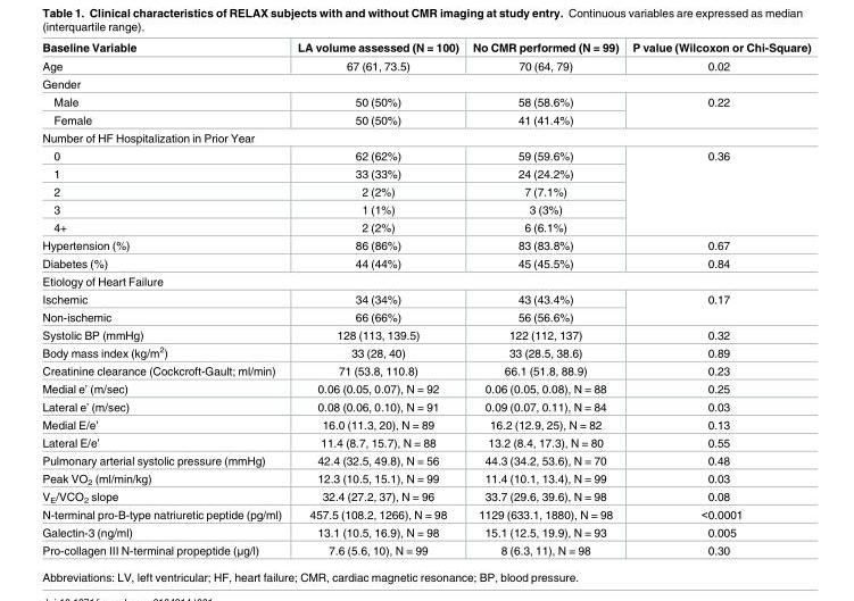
<table><thead><tr><td>Baseline Variable</td><td>LA volume assessed (N = 100)</td><td>No CMR performed (N = 99)</td><td>P value (Wilcoxon or Chi-Square)</td></tr></thead><tbody><tr><td>Age</td><td>67 (61, 73.5)</td><td>70 (64, 79)</td><td>0.02</td></tr><tr><td colspan="4">Gender</td></tr><tr><td>Male</td><td>50 (50%)</td><td>58 (58.6%)</td><td rowspan="2">0.22</td></tr><tr><td>Female</td><td>50 (50%)</td><td>41 (41.4%)</td></tr><tr><td colspan="4">Number of HF Hospitalization in Prior Year</td></tr><tr><td>0</td><td>62 (62%)</td><td>59 (59.6%)</td><td rowspan="5">0.36</td></tr><tr><td>1</td><td>33 (33%)</td><td>24 (24.2%)</td></tr><tr><td>2</td><td>2 (2%)</td><td>7 (7.1%)</td></tr><tr><td>3</td><td>1 (1%)</td><td>3 (3%)</td></tr><tr><td>4+</td><td>2 (2%)</td><td>6 (6.1%)</td></tr><tr><td>Hypertension (%)</td><td>86 (86%)</td><td>83 (83.8%)</td><td>0.67</td></tr><tr><td>Diabetes (%)</td><td>44 (44%)</td><td>45 (45.5%)</td><td>0.84</td></tr><tr><td colspan="4">Etiology of Heart Failure</td></tr><tr><td>Ischemic</td><td>34 (34%)</td><td>43 (43.4%)</td><td rowspan="2">0.17</td></tr><tr><td>Non-ischemic</td><td>66 (66%)</td><td>56 (56.6%)</td></tr><tr><td>Systolic BP (mmHg)</td><td>128 (113, 139.5)</td><td>122 (112, 137)</td><td>0.32</td></tr><tr><td>Body mass index (kg/m<sup>2</sup>)</td><td>33 (28, 40)</td><td>33 (28.5, 38.6)</td><td>0.89</td></tr><tr><td>Creatinine clearance (Cockcroft-Gault; ml/min)</td><td>71 (53.8, 110.8)</td><td>66.1 (51.8, 88.9)</td><td>0.23</td></tr><tr><td>Medial e’ (m/sec)</td><td>0.06 (0.05, 0.07), N = 92</td><td>0.06 (0.05, 0.08), N = 88</td><td>0.25</td></tr><tr><td>Lateral e’ (m/sec)</td><td>0.08 (0.06, 0.10), N = 91</td><td>0.09 (0.07, 0.11), N = 84</td><td>0.03</td></tr><tr><td>Medial E/e’</td><td>16.0 (11.3, 20), N = 89</td><td>16.2 (12.9, 25), N = 82</td><td>0.13</td></tr><tr><td>Lateral E/e’</td><td>11.4 (8.7, 15.7), N = 88</td><td>13.2 (8.4, 17.3), N = 80</td><td>0.55</td></tr><tr><td>Pulmonary arterial systolic pressure (mmHg)</td><td>42.4 (32.5, 49.8), N = 56</td><td>44.3 (34.2, 53.6), N = 70</td><td>0.48</td></tr><tr><td>Peak VO<sub>2</sub> (ml/min/kg)</td><td>12.3 (10.5, 15.1), N = 99</td><td>11.4 (10.1, 13.4), N = 99</td><td>0.03</td></tr><tr><td>V<sub>E</sub>/VCO<sub>2</sub> slope</td><td>32.4 (27.2, 37), N = 96</td><td>33.7 (29.6, 39.6), N = 98</td><td>0.08</td></tr><tr><td>N-terminal pro-B-type natriuretic peptide (pg/ml)</td><td>457.5 (108.2, 1266), N = 98</td><td>1129 (633.1, 1880), N = 98</td><td>&lt;0.0001</td></tr><tr><td>Galectin-3 (ng/ml)</td><td>13.1 (10.5, 16.9), N = 98</td><td>15.1 (12.5, 19.9), N = 93</td><td>0.005</td></tr><tr><td>Pro-collagen III N-terminal propeptide (μg/l)</td><td>7.6 (5.6, 10), N = 99</td><td>8 (6.3, 11), N = 98</td><td>0.30</td></tr></tbody></table>